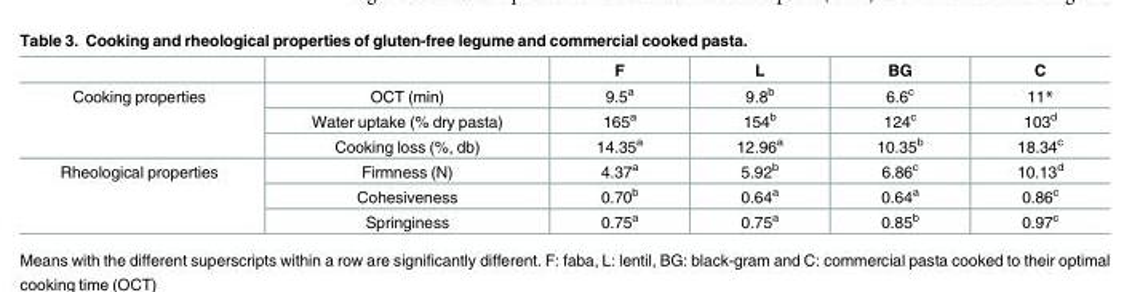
<table><thead><tr><td></td><td></td><td>F</td><td>L</td><td>BG</td><td>C</td></tr></thead><tbody><tr><td rowspan="3">Cooking properties</td><td>OCT (min)</td><td>9.5<sup>a</sup></td><td>9.8<sup>b</sup></td><td>6.6<sup>c</sup></td><td>11*</td></tr><tr><td>Water uptake (% dry pasta)</td><td>165<sup>a</sup></td><td>154<sup>b</sup></td><td>124<sup>c</sup></td><td>103<sup>d</sup></td></tr><tr><td>Cooking loss (%, db)</td><td>14.35<sup>a</sup></td><td>12.96<sup>a</sup></td><td>10.35<sup>b</sup></td><td>18.34<sup>c</sup></td></tr><tr><td rowspan="3">Rheological properties</td><td>Firmness (N)</td><td>4.37<sup>a</sup></td><td>5.92<sup>b</sup></td><td>6.86<sup>c</sup></td><td>10.13<sup>d</sup></td></tr><tr><td>Cohesiveness</td><td>0.70<sup>b</sup></td><td>0.64<sup>a</sup></td><td>0.64<sup>a</sup></td><td>0.86<sup>c</sup></td></tr><tr><td>Springiness</td><td>0.75<sup>a</sup></td><td>0.75<sup>a</sup></td><td>0.85<sup>b</sup></td><td>0.97<sup>c</sup></td></tr></tbody></table>